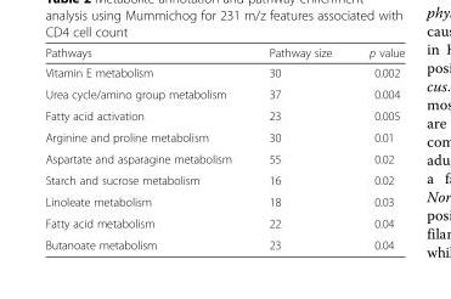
<table><thead><tr><td>Pathways</td><td>Pathway size</td><td>p value</td></tr></thead><tbody><tr><td>Vitamin E metabolism</td><td>30</td><td>0.002</td></tr><tr><td>Urea cycle/amino group metabolism</td><td>37</td><td>0.004</td></tr><tr><td>Fatty acid activation</td><td>23</td><td>0.005</td></tr><tr><td>Arginine and proline metabolism</td><td>30</td><td>0.01</td></tr><tr><td>Aspartate and asparagine metabolism</td><td>55</td><td>0.02</td></tr><tr><td>Starch and sucrose metabolism</td><td>16</td><td>0.02</td></tr><tr><td>Linoleate metabolism</td><td>18</td><td>0.03</td></tr><tr><td>Fatty acid metabolism</td><td>22</td><td>0.04</td></tr><tr><td>Butanoate metabolism</td><td>23</td><td>0.04</td></tr></tbody></table>